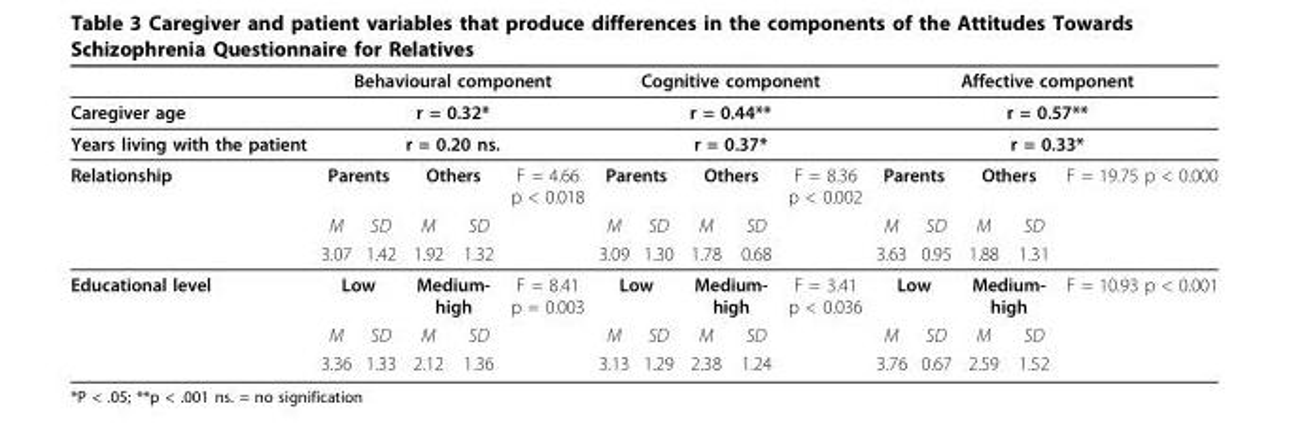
<table><thead><tr><td></td><td colspan="5">Behavioural component</td><td colspan="5">Cognitive component</td><td colspan="5">Affective component</td></tr></thead><tbody><tr><td>Caregiver age</td><td colspan="5">r = 0.32*</td><td colspan="5">r = 0.44**</td><td colspan="5">r = 0.57**</td></tr><tr><td>Years living with the patient</td><td colspan="5">r = 0.20 ns.</td><td colspan="5">r = 0.37*</td><td colspan="5">r = 0.33*</td></tr><tr><td rowspan="3">Relationship</td><td colspan="2">Parents</td><td colspan="2">Others</td><td>F = 4.66 p &lt; 0.018</td><td colspan="2">Parents</td><td colspan="2">Others</td><td>F = 8.36 p &lt; 0.002</td><td colspan="2">Parents</td><td colspan="2">Others</td><td>F = 19.75 p &lt; 0.000</td></tr><tr><td>M</td><td>SD</td><td>M</td><td>SD</td><td></td><td>M</td><td>SD</td><td>M</td><td>SD</td><td></td><td>M</td><td>SD</td><td>M</td><td>SD</td><td></td></tr><tr><td>3.07</td><td>1.42</td><td>1.92</td><td>1.32</td><td></td><td>3.09</td><td>1.30</td><td>1.78</td><td>0.68</td><td></td><td>3.63</td><td>0.95</td><td>1.88</td><td>1.31</td><td></td></tr><tr><td rowspan="3">Educational level</td><td colspan="2">Low</td><td colspan="2">Medium- high</td><td>F = 8.41 p = 0.003</td><td colspan="2">Low</td><td colspan="2">Medium- high</td><td>F = 3.41 p &lt; 0.036</td><td colspan="2">Low</td><td colspan="2">Medium- high</td><td>F = 10.93 p &lt; 0.001</td></tr><tr><td>M</td><td>SD</td><td>M</td><td>SD</td><td></td><td>M</td><td>SD</td><td>M</td><td>SD</td><td></td><td>M</td><td>SD</td><td>M</td><td>SD</td><td></td></tr><tr><td>3.36</td><td>1.33</td><td>2.12</td><td>1.36</td><td></td><td>3.13</td><td>1.29</td><td>2.38</td><td>1.24</td><td></td><td>3.76</td><td>0.67</td><td>2.59</td><td>1.52</td><td></td></tr></tbody></table>